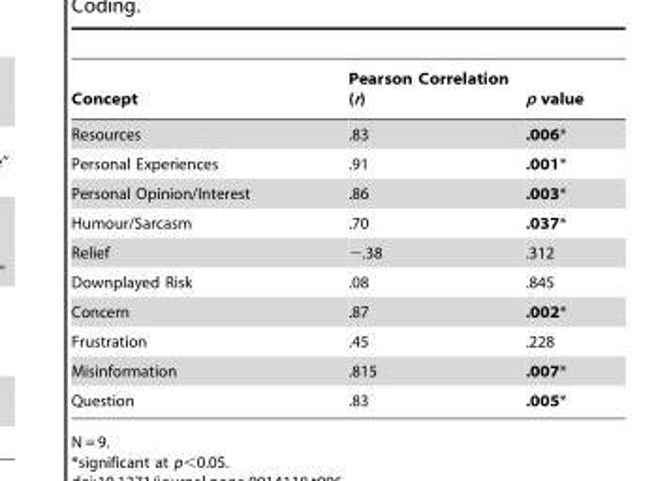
<table><thead><tr><td>Concept</td><td>Pearson Correlation (r)</td><td>p value</td></tr></thead><tbody><tr><td>Resources</td><td>.83</td><td>.006*</td></tr><tr><td>Personal Experiences</td><td>.91</td><td>.001*</td></tr><tr><td>Personal Opinion/Interest</td><td>.86</td><td>.003*</td></tr><tr><td>Humour/Sarcasm</td><td>.70</td><td>.037*</td></tr><tr><td>Relief</td><td>−.38</td><td>.312</td></tr><tr><td>Downplayed Risk</td><td>.08</td><td>.845</td></tr><tr><td>Concern</td><td>.87</td><td>.002*</td></tr><tr><td>Frustration</td><td>.45</td><td>.228</td></tr><tr><td>Misinformation</td><td>.815</td><td>.007*</td></tr><tr><td>Question</td><td>.83</td><td>.005*</td></tr></tbody></table>